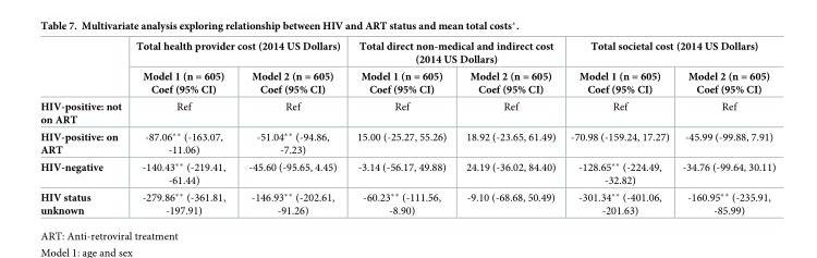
<table><thead><tr><td rowspan="2"></td><td colspan="2">Total health provider cost (2014 US Dollars)</td><td colspan="2">Total direct non-medical and indirect cost (2014 US Dollars)</td><td colspan="2">Total societal cost (2014 US Dollars)</td></tr><tr><td>Model 1 (n = 605) Coef (95% CI)</td><td>Model 2 (n = 605) Coef (95% CI)</td><td>Model 1 (n = 605) Coef (95% CI)</td><td>Model 2 (n = 605) Coef (95% CI)</td><td>Model 1 (n = 605) Coef (95% CI)</td><td>Model 2 (n = 605) Coef (95% CI)</td></tr></thead><tbody><tr><td>HIV-positive: not on ART</td><td>Ref</td><td>Ref</td><td>Ref</td><td>Ref</td><td>Ref</td><td>Ref</td></tr><tr><td>HIV-positive: on ART</td><td>-87.06** (-163.07, -11.06)</td><td>-51.04** (-94.86, -7.23)</td><td>15.00 (-25.27, 55.26)</td><td>18.92 (-23.65, 61.49)</td><td>-70.98 (-159.24, 17.27)</td><td>-45.99 (-99.88, 7.91)</td></tr><tr><td>HIV-negative</td><td>-140.43** (-219.41, -61.44)</td><td>-45.60 (-95.65, 4.45)</td><td>-3.14 (-56.17, 49.88)</td><td>24.19 (-36.02, 84.40)</td><td>-128.65** (-224.49, -32.82)</td><td>-34.76 (-99.64, 30.11)</td></tr><tr><td>HIV status unknown</td><td>-279.86** (-361.81, -197.91)</td><td>-146.93** (-202.61, -91.26)</td><td>-60.23** (-111.56, -8.90)</td><td>-9.10 (-68.68, 50.49)</td><td>-301.34** (-401.06, -201.63)</td><td>-160.95** (-235.91, -85.99)</td></tr></tbody></table>